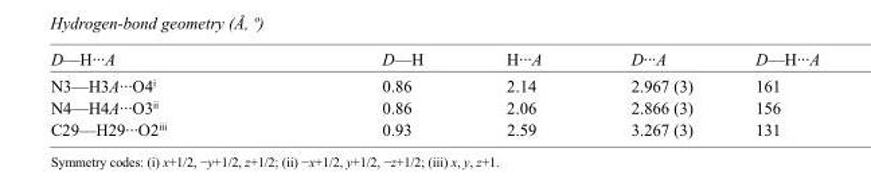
<table><tbody><tr><td>D—H···A</td><td>D—H</td><td>H···A</td><td>D···A</td><td>D—H···A</td></tr><tr><td>N3—H3A···O4<sup>i</sup></td><td>0.86</td><td>2.14</td><td>2.967 (3)</td><td>161</td></tr><tr><td>N4—H4A···O3<sup>ii</sup></td><td>0.86</td><td>2.06</td><td>2.866 (3)</td><td>156</td></tr><tr><td>C29—H29···O2<sup>iii</sup></td><td>0.93</td><td>2.59</td><td>3.267 (3)</td><td>131</td></tr></tbody></table>